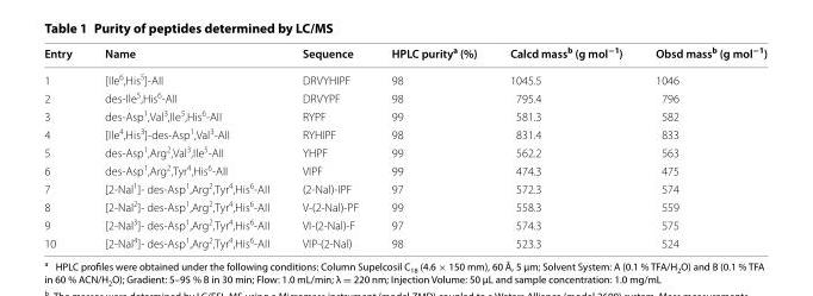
<table><thead><tr><td>Entry</td><td>Name</td><td>Sequence</td><td>HPLC purity<sup>a</sup> (%)</td><td>Calcd mass<sup>b</sup> (g mol<sup>−1</sup>)</td><td>Obsd mass<sup>b</sup> (g mol<sup>−1</sup>)</td></tr></thead><tbody><tr><td>1</td><td>[Ile<sup>6</sup>,His<sup>5</sup>]-AII</td><td>DRVYHIPF</td><td>98</td><td>1045.5</td><td>1046</td></tr><tr><td>2</td><td>des-Ile<sup>5</sup>,His<sup>6</sup>-AII</td><td>DRVYPF</td><td>98</td><td>795.4</td><td>796</td></tr><tr><td>3</td><td>des-Asp<sup>1</sup>,Val<sup>3</sup>,Ile<sup>5</sup>,His<sup>6</sup>-AII</td><td>RYPF</td><td>99</td><td>581.3</td><td>582</td></tr><tr><td>4</td><td>[Ile<sup>4</sup>,His<sup>3</sup>]-des-Asp<sup>1</sup>,Val<sup>3</sup>-AII</td><td>RYHIPF</td><td>98</td><td>831.4</td><td>833</td></tr><tr><td>5</td><td>des-Asp<sup>1</sup>,Arg<sup>2</sup>,Val<sup>3</sup>,Ile<sup>5</sup>-AII</td><td>YHPF</td><td>99</td><td>562.2</td><td>563</td></tr><tr><td>6</td><td>des-Asp<sup>1</sup>,Arg<sup>2</sup>,Tyr<sup>4</sup>,His<sup>6</sup>-AII</td><td>VIPF</td><td>99</td><td>474.3</td><td>475</td></tr><tr><td>7</td><td>[2-Nal<sup>1</sup>]- des-Asp<sup>1</sup>,Arg<sup>2</sup>,Tyr<sup>4</sup>,His<sup>6</sup>-AII</td><td>(2-Nal)-IPF</td><td>97</td><td>572.3</td><td>574</td></tr><tr><td>8</td><td>[2-Nal<sup>2</sup>]- des-Asp<sup>1</sup>,Arg<sup>2</sup>,Tyr<sup>4</sup>,His<sup>6</sup>-AII</td><td>V-(2-Nal)-PF</td><td>99</td><td>558.3</td><td>559</td></tr><tr><td>9</td><td>[2-Nal<sup>3</sup>]- des-Asp<sup>1</sup>,Arg<sup>2</sup>,Tyr<sup>4</sup>,His<sup>6</sup>-AII</td><td>VI-(2-Nal)-F</td><td>97</td><td>574.3</td><td>575</td></tr><tr><td>10</td><td>[2-Nal<sup>4</sup>]- des-Asp<sup>1</sup>,Arg<sup>2</sup>,Tyr<sup>4</sup>,His<sup>6</sup>-AII</td><td>VIP-(2-Nal)</td><td>98</td><td>523.3</td><td>524</td></tr></tbody></table>